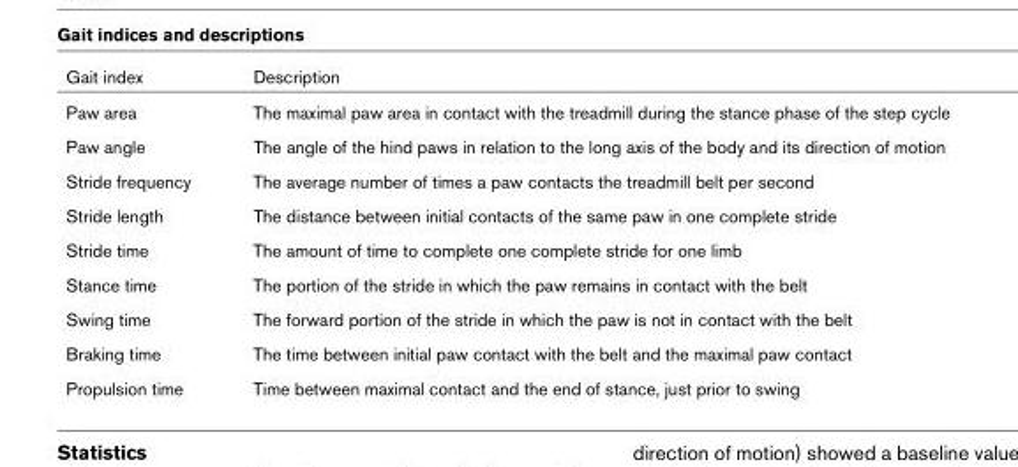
<table><thead><tr><td>Gait index</td><td>Description</td></tr></thead><tbody><tr><td>Paw area</td><td>The maximal paw area in contact with the treadmill during the stance phase of the step cycle</td></tr><tr><td>Paw angle</td><td>The angle of the hind paws in relation to the long axis of the body and its direction of motion</td></tr><tr><td>Stride frequency</td><td>The average number of times a paw contacts the treadmill belt per second</td></tr><tr><td>Stride length</td><td>The distance between initial contacts of the same paw in one complete stride</td></tr><tr><td>Stride time</td><td>The amount of time to complete one complete stride for one limb</td></tr><tr><td>Stance time</td><td>The portion of the stride in which the paw remains in contact with the belt</td></tr><tr><td>Swing time</td><td>The forward portion of the stride in which the paw is not in contact with the belt</td></tr><tr><td>Braking time</td><td>The time between initial paw contact with the belt and the maximal paw contact</td></tr><tr><td>Propulsion time</td><td>Time between maximal contact and the end of stance, just prior to swing</td></tr></tbody></table>